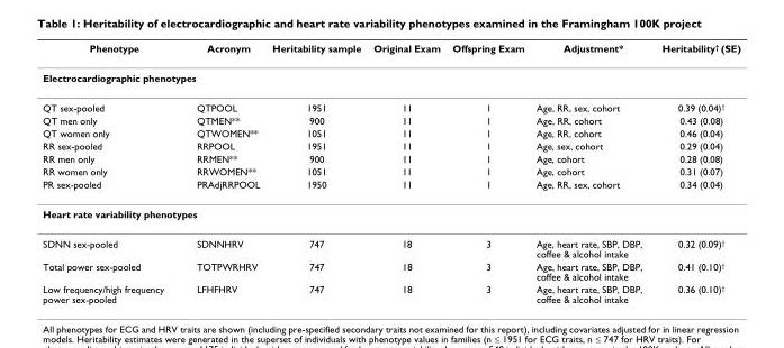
<table><thead><tr><td>Phenotype</td><td>Acronym</td><td>Heritability sample</td><td>Original Exam</td><td>Offspring Exam</td><td>Adjustment*</td><td>Heritability<sup>†</sup> (SE)</td></tr></thead><tbody><tr><td colspan="7">Electrocardiographic phenotypes</td></tr><tr><td>QT sex-pooled</td><td>QTPOOL</td><td>1951</td><td>11</td><td>1</td><td>Age, RR, sex, cohort</td><td>0.39 (0.04)<sup>†</sup></td></tr><tr><td>QT men only</td><td>QTMEN**</td><td>900</td><td>11</td><td>1</td><td>Age, RR, cohort</td><td>0.43 (0.08)</td></tr><tr><td>QT women only</td><td>QTWOMEN**</td><td>1051</td><td>11</td><td>1</td><td>Age, RR, cohort</td><td>0.46 (0.04)</td></tr><tr><td>RR sex-pooled</td><td>RRPOOL</td><td>1951</td><td>11</td><td>1</td><td>Age, sex, cohort</td><td>0.29 (0.04)</td></tr><tr><td>RR men only</td><td>RRMEN**</td><td>900</td><td>11</td><td>1</td><td>Age, cohort</td><td>0.28 (0.08)</td></tr><tr><td>RR women only</td><td>RRWOMEN**</td><td>1051</td><td>11</td><td>1</td><td>Age, cohort</td><td>0.31 (0.07)</td></tr><tr><td>PR sex-pooled</td><td>PRAdjRRPOOL</td><td>1950</td><td>11</td><td>1</td><td>Age, RR, sex, cohort</td><td>0.34 (0.04)</td></tr><tr><td colspan="7">Heart rate variability phenotypes</td></tr><tr><td>SDNN sex-pooled</td><td>SDNNHRV</td><td>747</td><td>18</td><td>3</td><td>Age, heart rate, SBP, DBP, coffee &amp; alcohol intake</td><td>0.32 (0.09)<sup>†</sup></td></tr><tr><td>Total power sex-pooled</td><td>TOTPWRHRV</td><td>747</td><td>18</td><td>3</td><td>Age, heart rate, SBP, DBP, coffee &amp; alcohol intake</td><td>0.41 (0.10)<sup>†</sup></td></tr><tr><td>Low frequency/high frequency power sex-pooled</td><td>LFHFHRV</td><td>747</td><td>18</td><td>3</td><td>Age, heart rate, SBP, DBP, coffee &amp; alcohol intake</td><td>0.36 (0.10)<sup>†</sup></td></tr></tbody></table>